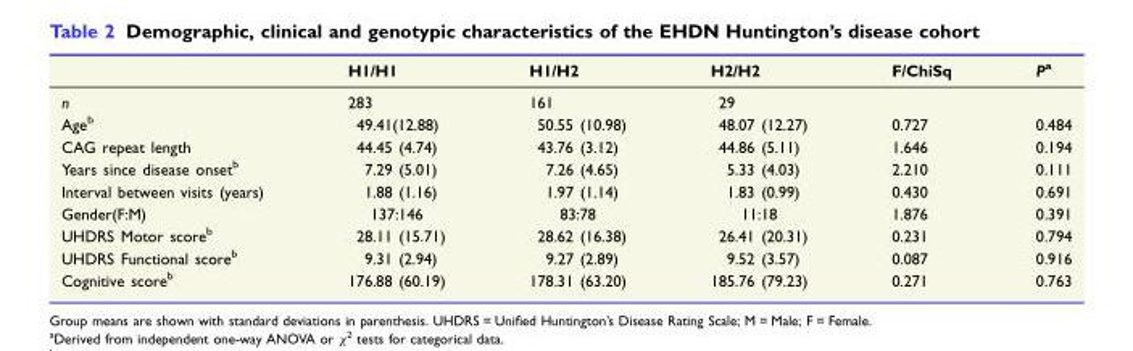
<table><thead><tr><td></td><td>H1/H1</td><td>H1/H2</td><td>H2/H2</td><td>F/ChiSq</td><td>P<sup>a</sup></td></tr></thead><tbody><tr><td>n</td><td>283</td><td>161</td><td>29</td><td></td><td></td></tr><tr><td>Age<sup>b</sup></td><td>49.41(12.88)</td><td>50.55 (10.98)</td><td>48.07 (12.27)</td><td>0.727</td><td>0.484</td></tr><tr><td>CAG repeat length</td><td>44.45 (4.74)</td><td>43.76 (3.12)</td><td>44.86 (5.11)</td><td>1.646</td><td>0.194</td></tr><tr><td>Years since disease onset<sup>b</sup></td><td>7.29 (5.01)</td><td>7.26 (4.65)</td><td>5.33 (4.03)</td><td>2.210</td><td>0.111</td></tr><tr><td>Interval between visits (years)</td><td>1.88 (1.16)</td><td>1.97 (1.14)</td><td>1.83 (0.99)</td><td>0.430</td><td>0.691</td></tr><tr><td>Gender(F:M)</td><td>137:146</td><td>83:78</td><td>11:18</td><td>1.876</td><td>0.391</td></tr><tr><td>UHDRS Motor score<sup>b</sup></td><td>28.11 (15.71)</td><td>28.62 (16.38)</td><td>26.41 (20.31)</td><td>0.231</td><td>0.794</td></tr><tr><td>UHDRS Functional score<sup>b</sup></td><td>9.31 (2.94)</td><td>9.27 (2.89)</td><td>9.52 (3.57)</td><td>0.087</td><td>0.916</td></tr><tr><td>Cognitive score<sup>b</sup></td><td>176.88 (60.19)</td><td>178.31 (63.20)</td><td>185.76 (79.23)</td><td>0.271</td><td>0.763</td></tr></tbody></table>